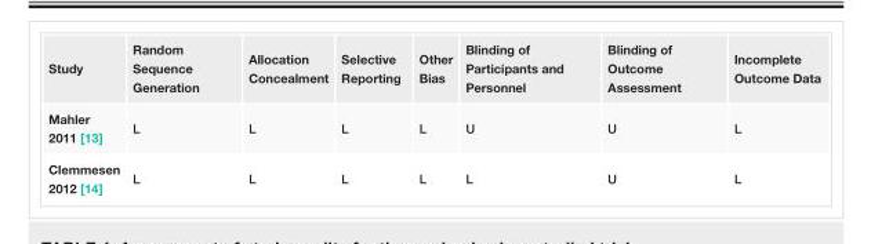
<table><tbody><tr><td>Study</td><td>Random Sequence Generation</td><td>Allocation Concealment</td><td>Selective Reporting</td><td>Other Bias</td><td>Blinding of Participants and Personnel</td><td>Blinding of Outcome Assessment</td><td>Incomplete Outcome Data</td></tr><tr><td>Mahler 2011 [13]</td><td>L</td><td>L</td><td>L</td><td>L</td><td>U</td><td>U</td><td>L</td></tr><tr><td>Clemmesen 2012 [14]</td><td>L</td><td>L</td><td>L</td><td>L</td><td>L</td><td>U</td><td>L</td></tr></tbody></table>